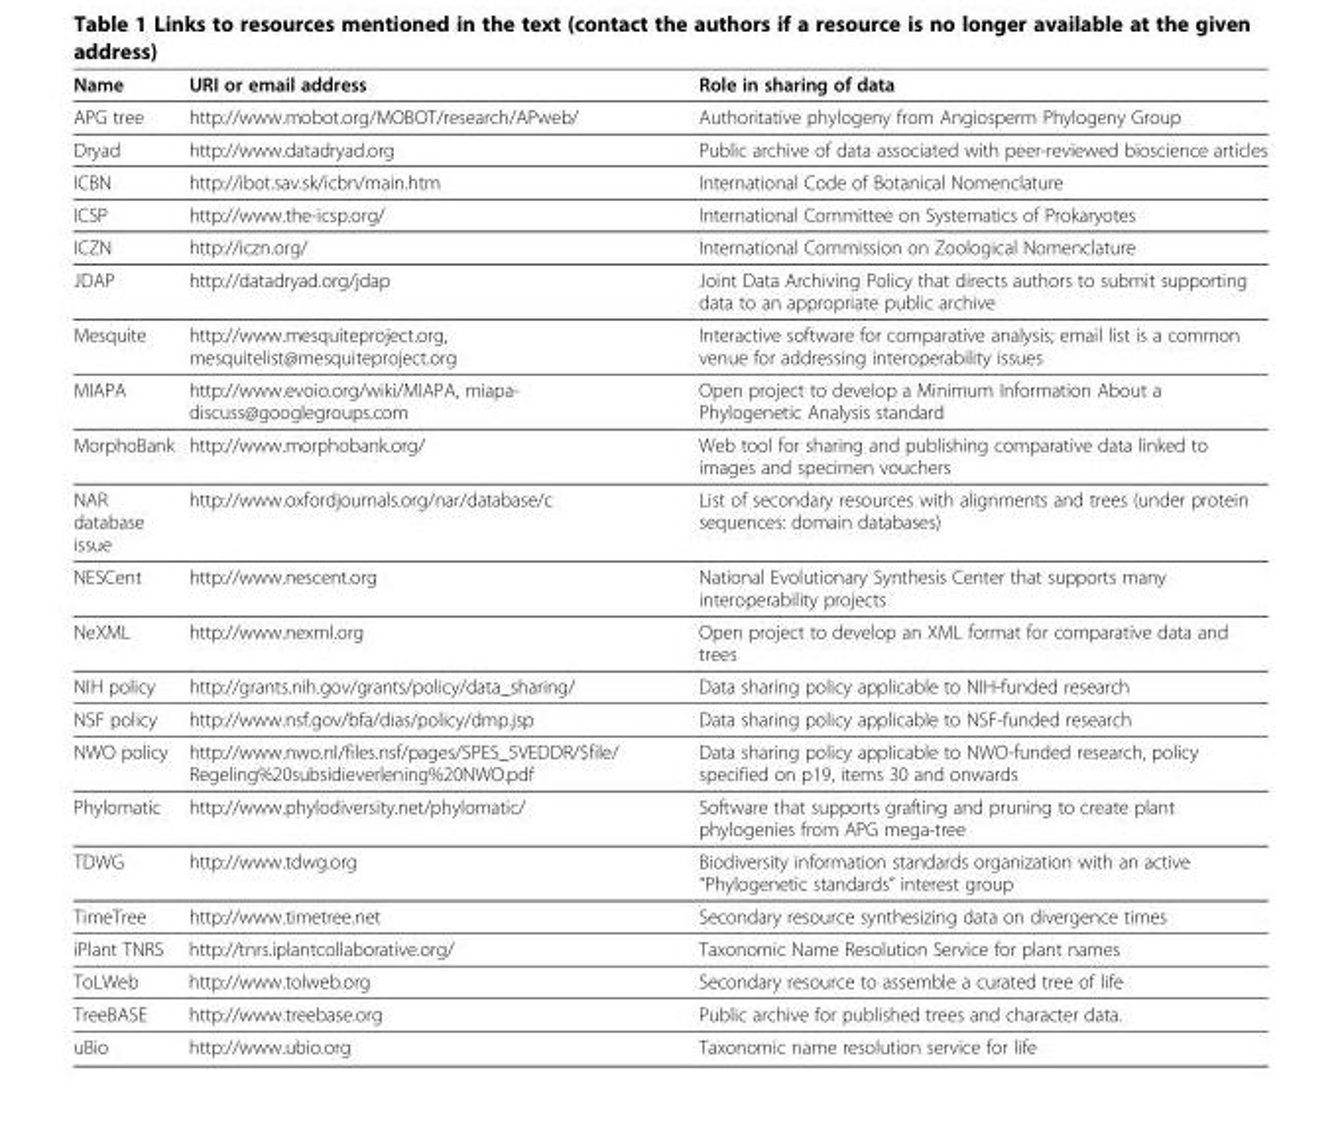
<table><thead><tr><td>Name</td><td>URI or email address</td><td>Role in sharing of data</td></tr></thead><tbody><tr><td>APG tree</td><td>http://www.mobot.org/MOBOT/research/APweb/</td><td>Authoritative phylogeny from Angiosperm Phylogeny Group</td></tr><tr><td>Dryad</td><td>http://www.datadryad.org</td><td>Public archive of data associated with peer-reviewed bioscience articles</td></tr><tr><td>ICBN</td><td>http://ibot.sav.sk/icbn/main.htm</td><td>International Code of Botanical Nomenclature</td></tr><tr><td>ICSP</td><td>http://www.the-icsp.org/</td><td>International Committee on Systematics of Prokaryotes</td></tr><tr><td>ICZN</td><td>http://iczn.org/</td><td>International Commission on Zoological Nomenclature</td></tr><tr><td>JDAP</td><td>http://datadryad.org/jdap</td><td>Joint Data Archiving Policy that directs authors to submit supporting data to an appropriate public archive</td></tr><tr><td>Mesquite</td><td>http://www.mesquiteproject.org, mesquitelist@mesquiteproject.org</td><td>Interactive software for comparative analysis; email list is a common venue for addressing interoperability issues</td></tr><tr><td>MIAPA</td><td>http://www.evoio.org/wiki/MIAPA, miapa- discuss@googlegroups.com</td><td>Open project to develop a Minimum Information About a Phylogenetic Analysis standard</td></tr><tr><td>MorphoBank</td><td>http://www.morphobank.org/</td><td>Web tool for sharing and publishing comparative data linked to images and specimen vouchers</td></tr><tr><td>NAR database issue</td><td>http://www.oxfordjournals.org/nar/database/c</td><td>List of secondary resources with alignments and trees (under protein sequences: domain databases)</td></tr><tr><td>NESCent</td><td>http://www.nescent.org</td><td>National Evolutionary Synthesis Center that supports many interoperability projects</td></tr><tr><td>NeXML</td><td>http://www.nexml.org</td><td>Open project to develop an XML format for comparative data and trees</td></tr><tr><td>NIH policy</td><td>http://grants.nih.gov/grants/policy/data_sharing/</td><td>Data sharing policy applicable to NIH-funded research</td></tr><tr><td>NSF policy</td><td>http://www.nsf.gov/bfa/dias/policy/dmp.jsp</td><td>Data sharing policy applicable to NSF-funded research</td></tr><tr><td>NWO policy</td><td>http://www.nwo.nl/files.nsf/pages/SPES_5VEDDR/$file/ Regeling%20subsidieverlening%20NWO.pdf</td><td>Data sharing policy applicable to NWO-funded research, policy specified on p19, items 30 and onwards</td></tr><tr><td>Phylomatic</td><td>http://www.phylodiversity.net/phylomatic/</td><td>Software that supports grafting and pruning to create plant phylogenies from APG mega-tree</td></tr><tr><td>TDWG</td><td>http://www.tdwg.org</td><td>Biodiversity information standards organization with an active “Phylogenetic standards” interest group</td></tr><tr><td>TimeTree</td><td>http://www.timetree.net</td><td>Secondary resource synthesizing data on divergence times</td></tr><tr><td>iPlant TNRS</td><td>http://tnrs.iplantcollaborative.org/</td><td>Taxonomic Name Resolution Service for plant names</td></tr><tr><td>ToLWeb</td><td>http://www.tolweb.org</td><td>Secondary resource to assemble a curated tree of life</td></tr><tr><td>TreeBASE</td><td>http://www.treebase.org</td><td>Public archive for published trees and character data.</td></tr><tr><td>uBio</td><td>http://www.ubio.org</td><td>Taxonomic name resolution service for life</td></tr></tbody></table>